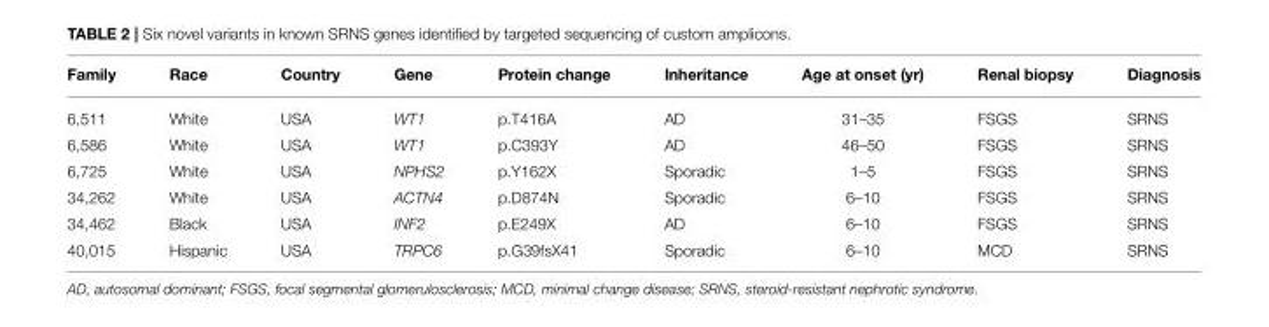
<table><thead><tr><td>Family</td><td>Race</td><td>Country</td><td>Gene</td><td>Protein change</td><td>Inheritance</td><td>Age at onset (yr)</td><td>Renal biopsy</td><td>Diagnosis</td></tr></thead><tbody><tr><td>6,511</td><td>White</td><td>USA</td><td>WT1</td><td>p.T416A</td><td>AD</td><td>31–35</td><td>FSGS</td><td>SRNS</td></tr><tr><td>6,586</td><td>White</td><td>USA</td><td>WT1</td><td>p.C393Y</td><td>AD</td><td>46–50</td><td>FSGS</td><td>SRNS</td></tr><tr><td>6,725</td><td>White</td><td>USA</td><td>NPHS2</td><td>p.Y162X</td><td>Sporadic</td><td>1–5</td><td>FSGS</td><td>SRNS</td></tr><tr><td>34,262</td><td>White</td><td>USA</td><td>ACTN4</td><td>p.D874N</td><td>Sporadic</td><td>6–10</td><td>FSGS</td><td>SRNS</td></tr><tr><td>34,462</td><td>Black</td><td>USA</td><td>INF2</td><td>p.E249X</td><td>AD</td><td>6–10</td><td>FSGS</td><td>SRNS</td></tr><tr><td>40,015</td><td>Hispanic</td><td>USA</td><td>TRPC6</td><td>p.G39fsX41</td><td>Sporadic</td><td>6–10</td><td>MCD</td><td>SRNS</td></tr></tbody></table>